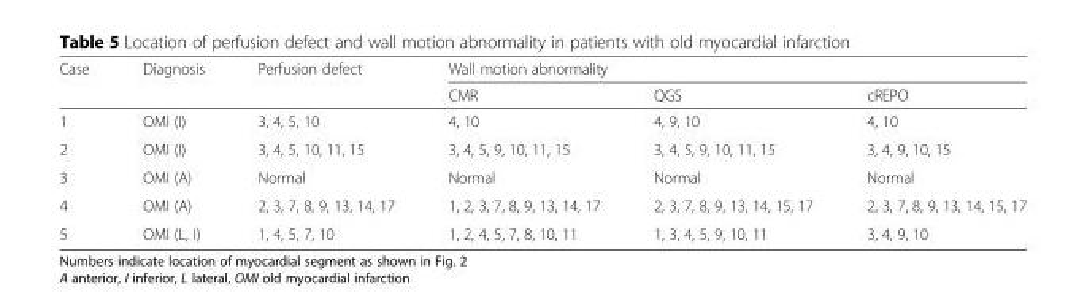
<table><thead><tr><td rowspan="2">Case</td><td rowspan="2">Diagnosis</td><td rowspan="2">Perfusion defect</td><td colspan="3">Wall motion abnormality</td></tr><tr><td>CMR</td><td>QGS</td><td>cREPO</td></tr></thead><tbody><tr><td>1</td><td>OMI (I)</td><td>3, 4, 5, 10</td><td>4, 10</td><td>4, 9, 10</td><td>4, 10</td></tr><tr><td>2</td><td>OMI (I)</td><td>3, 4, 5, 10, 11, 15</td><td>3, 4, 5, 9, 10, 11, 15</td><td>3, 4, 5, 9, 10, 11, 15</td><td>3, 4, 9, 10, 15</td></tr><tr><td>3</td><td>OMI (A)</td><td>Normal</td><td>Normal</td><td>Normal</td><td>Normal</td></tr><tr><td>4</td><td>OMI (A)</td><td>2, 3, 7, 8, 9, 13, 14, 17</td><td>1, 2, 3, 7, 8, 9, 13, 14, 17</td><td>2, 3, 7, 8, 9, 13, 14, 15, 17</td><td>2, 3, 7, 8, 9, 13, 14, 15, 17</td></tr><tr><td>5</td><td>OMI (L, I)</td><td>1, 4, 5, 7, 10</td><td>1, 2, 4, 5, 7, 8, 10, 11</td><td>1, 3, 4, 5, 9, 10, 11</td><td>3, 4, 9, 10</td></tr></tbody></table>